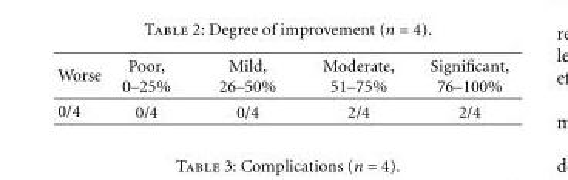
<table><thead><tr><td>Worse</td><td>Poor, 0–25%</td><td>Mild, 26–50%</td><td>Moderate, 51–75%</td><td>Significant, 76–100%</td></tr></thead><tbody><tr><td>0/4</td><td>0/4</td><td>0/4</td><td>2/4</td><td>2/4</td></tr></tbody></table>